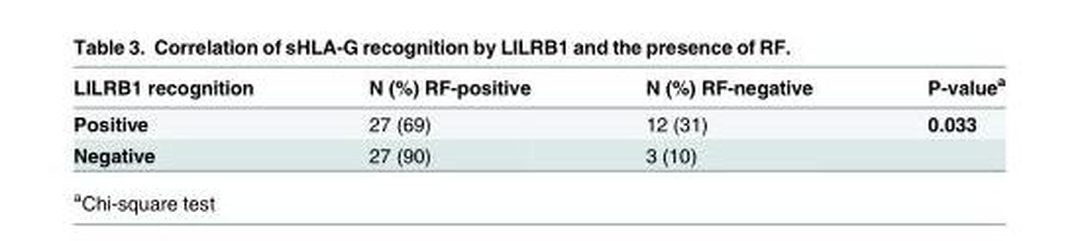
<table><thead><tr><td>LILRB1 recognition</td><td>N (%) RF-positive</td><td>N (%) RF-negative</td><td>P-value<sup>a</sup></td></tr></thead><tbody><tr><td>Positive</td><td>27 (69)</td><td>12 (31)</td><td>0.033</td></tr><tr><td>Negative</td><td>27 (90)</td><td>3 (10)</td><td></td></tr></tbody></table>